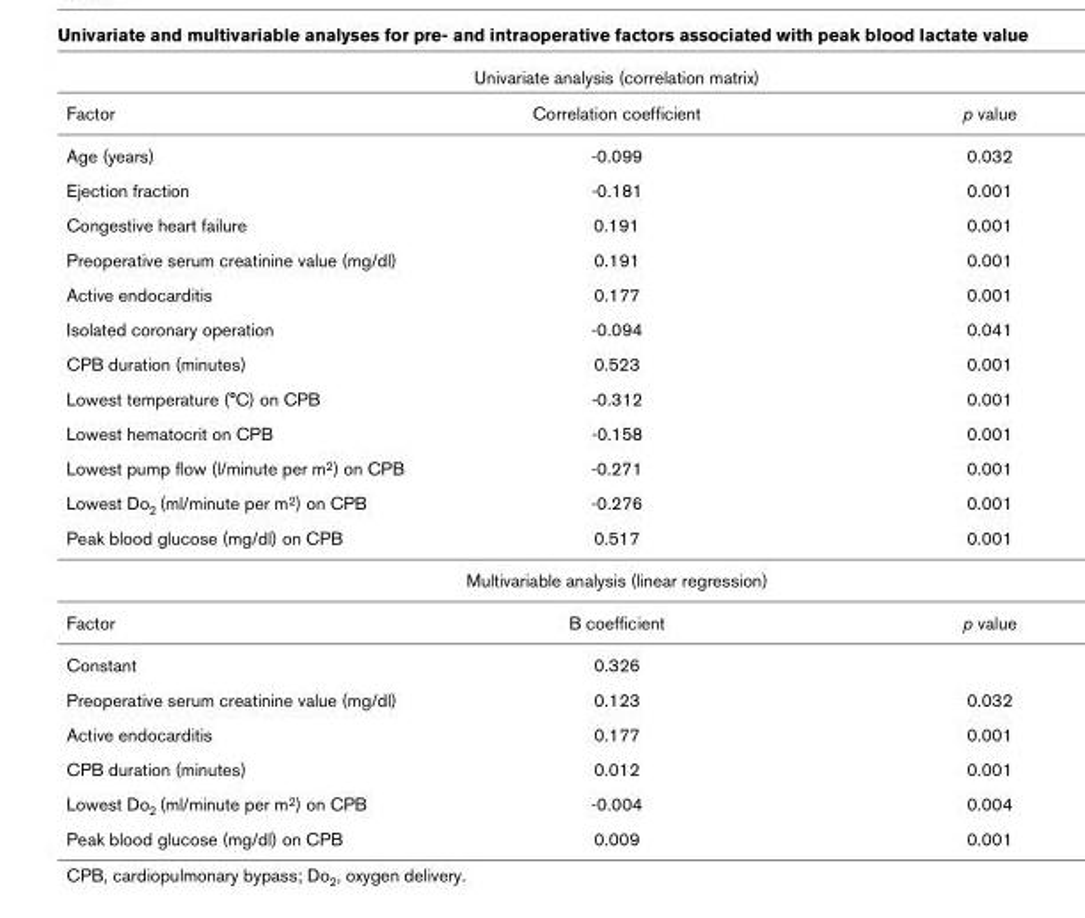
<table><thead><tr><td colspan="3">Univariate analysis (correlation matrix)</td></tr><tr><td>Factor</td><td>Correlation coefficient</td><td>p value</td></tr></thead><tbody><tr><td>Age (years)</td><td>-0.099</td><td>0.032</td></tr><tr><td>Ejection fraction</td><td>-0.181</td><td>0.001</td></tr><tr><td>Congestive heart failure</td><td>0.191</td><td>0.001</td></tr><tr><td>Preoperative serum creatinine value (mg/dl)</td><td>0.191</td><td>0.001</td></tr><tr><td>Active endocarditis</td><td>0.177</td><td>0.001</td></tr><tr><td>Isolated coronary operation</td><td>-0.094</td><td>0.041</td></tr><tr><td>CPB duration (minutes)</td><td>0.523</td><td>0.001</td></tr><tr><td>Lowest temperature (°C) on CPB</td><td>-0.312</td><td>0.001</td></tr><tr><td>Lowest hematocrit on CPB</td><td>-0.158</td><td>0.001</td></tr><tr><td>Lowest pump flow (l/minute per m2) on CPB</td><td>-0.271</td><td>0.001</td></tr><tr><td>Lowest Do2 (ml/minute per m2) on CPB</td><td>-0.276</td><td>0.001</td></tr><tr><td>Peak blood glucose (mg/dl) on CPB</td><td>0.517</td><td>0.001</td></tr><tr><td colspan="3">Multivariable analysis (linear regression)</td></tr><tr><td>Factor</td><td>B coefficient</td><td>p value</td></tr><tr><td>Constant</td><td>0.326</td><td></td></tr><tr><td>Preoperative serum creatinine value (mg/dl)</td><td>0.123</td><td>0.032</td></tr><tr><td>Active endocarditis</td><td>0.177</td><td>0.001</td></tr><tr><td>CPB duration (minutes)</td><td>0.012</td><td>0.001</td></tr><tr><td>Lowest Do2 (ml/minute per m2) on CPB</td><td>-0.004</td><td>0.004</td></tr><tr><td>Peak blood glucose (mg/dl) on CPB</td><td>0.009</td><td>0.001</td></tr></tbody></table>